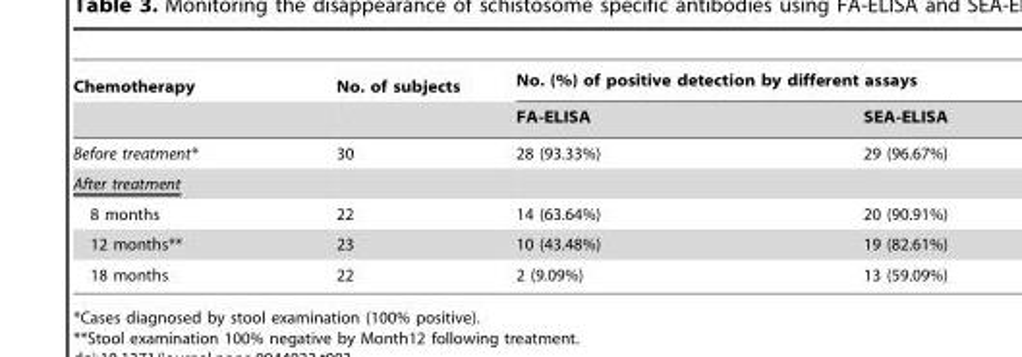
<table><thead><tr><td rowspan="2">Chemotherapy</td><td rowspan="2">No. of subjects</td><td colspan="2">No. (%) of positive detection by different assays</td></tr><tr><td>FA-ELISA</td><td>SEA-ELISA</td></tr></thead><tbody><tr><td>Before treatment*</td><td>30</td><td>28 (93.33%)</td><td>29 (96.67%)</td></tr><tr><td colspan="4">After treatment</td></tr><tr><td>8 months</td><td>22</td><td>14 (63.64%)</td><td>20 (90.91%)</td></tr><tr><td>12 months**</td><td>23</td><td>10 (43.48%)</td><td>19 (82.61%)</td></tr><tr><td>18 months</td><td>22</td><td>2 (9.09%)</td><td>13 (59.09%)</td></tr></tbody></table>